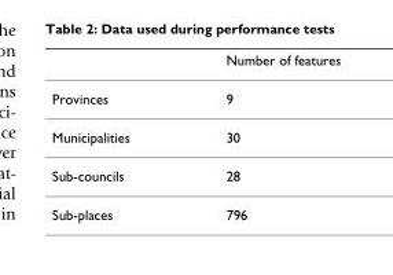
<table><thead><tr><td></td><td>Number of features</td></tr></thead><tbody><tr><td>Provinces</td><td>9</td></tr><tr><td>Municipalities</td><td>30</td></tr><tr><td>Sub-councils</td><td>28</td></tr><tr><td>Sub-places</td><td>796</td></tr></tbody></table>